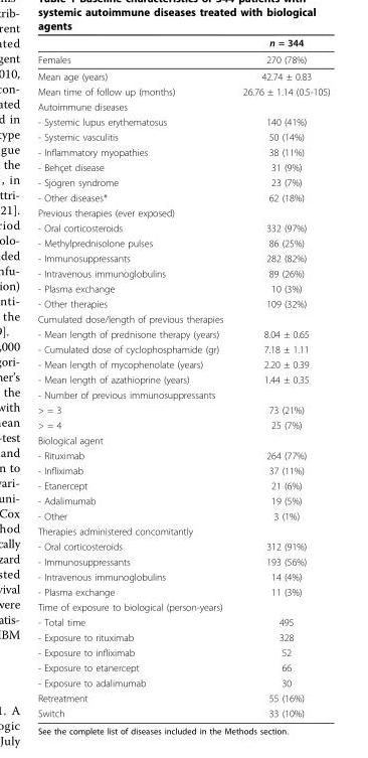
<table><thead><tr><td></td><td>n = 344</td></tr></thead><tbody><tr><td>Females</td><td>270 (78%)</td></tr><tr><td>Mean age (years)</td><td>42.74 ± 0.83</td></tr><tr><td>Mean time of follow up (months)</td><td>26.76 ± 1.14 (0.5-105)</td></tr><tr><td colspan="2">Autoimmune diseases</td></tr><tr><td>- Systemic lupus erythematosus</td><td>140 (41%)</td></tr><tr><td>- Systemic vasculitis</td><td>50 (14%)</td></tr><tr><td>- Inflammatory myopathies</td><td>38 (11%)</td></tr><tr><td>- Behçet disease</td><td>31 (9%)</td></tr><tr><td>- Sjögren syndrome</td><td>23 (7%)</td></tr><tr><td>- Other diseases*</td><td>62 (18%)</td></tr><tr><td colspan="2">Previous therapies (ever exposed)</td></tr><tr><td>- Oral corticosteroids</td><td>332 (97%)</td></tr><tr><td>- Methylprednisolone pulses</td><td>86 (25%)</td></tr><tr><td>- Immunosuppressants</td><td>282 (82%)</td></tr><tr><td>- Intravenous immunoglobulins</td><td>89 (26%)</td></tr><tr><td>- Plasma exchange</td><td>10 (3%)</td></tr><tr><td>- Other therapies</td><td>109 (32%)</td></tr><tr><td colspan="2">Cumulated dose/length of previous therapies</td></tr><tr><td>- Mean length of prednisone therapy (years)</td><td>8.04 ± 0.65</td></tr><tr><td>- Cumulated dose of cyclophosphamide (gr)</td><td>7.18 ± 1.11</td></tr><tr><td>- Mean length of mycophenolate (years)</td><td>2.20 ± 0.39</td></tr><tr><td>- Mean length of azathioprine (years)</td><td>1.44 ± 0.35</td></tr><tr><td colspan="2">- Number of previous immunosuppressants</td></tr><tr><td>&gt; = 3</td><td>73 (21%)</td></tr><tr><td>&gt; = 4</td><td>25 (7%)</td></tr><tr><td colspan="2">Biological agent</td></tr><tr><td>- Rituximab</td><td>264 (77%)</td></tr><tr><td>- Infliximab</td><td>37 (11%)</td></tr><tr><td>- Etanercept</td><td>21 (6%)</td></tr><tr><td>- Adalimumab</td><td>19 (5%)</td></tr><tr><td>- Other</td><td>3 (1%)</td></tr><tr><td colspan="2">Therapies administered concomitantly</td></tr><tr><td>- Oral corticosteroids</td><td>312 (91%)</td></tr><tr><td>- Immunosuppressants</td><td>193 (56%)</td></tr><tr><td>- Intravenous immunoglobulins</td><td>14 (4%)</td></tr><tr><td>- Plasma exchange</td><td>11 (3%)</td></tr><tr><td colspan="2">Time of exposure to biological (person-years)</td></tr><tr><td>- Total time</td><td>495</td></tr><tr><td>- Exposure to rituximab</td><td>328</td></tr><tr><td>- Exposure to infliximab</td><td>52</td></tr><tr><td>- Exposure to etanercept</td><td>66</td></tr><tr><td>- Exposure to adalimumab</td><td>30</td></tr><tr><td>Retreatment</td><td>55 (16%)</td></tr><tr><td>Switch</td><td>33 (10%)</td></tr></tbody></table>